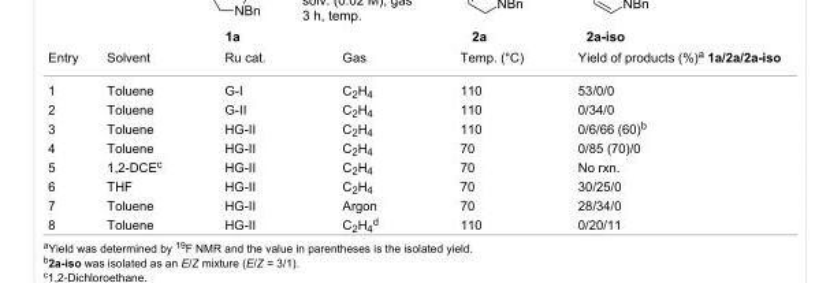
<table><tbody><tr><td>Entry</td><td>Solvent</td><td>Ru cat.</td><td>Gas</td><td>Temp. (°C)</td><td>Yield of products (%)<sup>a</sup> 1a/2a/2a-iso</td></tr><tr><td>1</td><td>Toluene</td><td>G-I</td><td>C<sub>2</sub>H<sub>4</sub></td><td>110</td><td>53/0/0</td></tr><tr><td>2</td><td>Toluene</td><td>G-II</td><td>C<sub>2</sub>H<sub>4</sub></td><td>110</td><td>0/34/0</td></tr><tr><td>3</td><td>Toluene</td><td>HG-II</td><td>C<sub>2</sub>H<sub>4</sub></td><td>110</td><td>0/6/66 (60)<sup>b</sup></td></tr><tr><td>4</td><td>Toluene</td><td>HG-II</td><td>C<sub>2</sub>H<sub>4</sub></td><td>70</td><td>0/85 (70)/0</td></tr><tr><td>5</td><td>1,2-DCE<sup>c</sup></td><td>HG-II</td><td>C<sub>2</sub>H<sub>4</sub></td><td>70</td><td>No rxn.</td></tr><tr><td>6</td><td>THF</td><td>HG-II</td><td>C<sub>2</sub>H<sub>4</sub></td><td>70</td><td>30/25/0</td></tr><tr><td>7</td><td>Toluene</td><td>HG-II</td><td>Argon</td><td>70</td><td>28/34/0</td></tr><tr><td>8</td><td>Toluene</td><td>HG-II</td><td>C<sub>2</sub>H<sub>4</sub><sup>d</sup></td><td>110</td><td>0/20/11</td></tr></tbody></table>